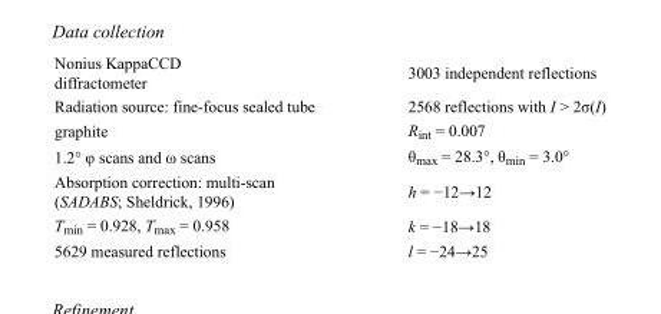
<table><tbody><tr><td>Nonius KappaCCD diffractometer</td><td>3003 independent reflections</td></tr><tr><td>Radiation source: fine-focus sealed tube</td><td>2568 reflections with I &gt; 2σ(I)</td></tr><tr><td>graphite</td><td>R<sub>int</sub> = 0.007</td></tr><tr><td>1.2° φ scans and ω scans</td><td>θ<sub>max</sub> = 28.3°, θ<sub>min</sub> = 3.0°</td></tr><tr><td>Absorption correction: multi-scan (SADABS; Sheldrick, 1996)</td><td>h = −12→12</td></tr><tr><td>T<sub>min</sub> = 0.928, T<sub>max</sub> = 0.958</td><td>k = −18→18</td></tr><tr><td>5629 measured reflections</td><td>l = −24→25</td></tr></tbody></table>